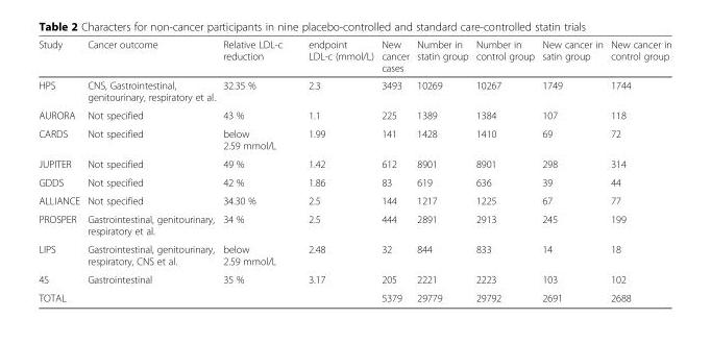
<table><thead><tr><td>Study</td><td>Cancer outcome</td><td>Relative LDL-c reduction</td><td>endpoint LDL-c (mmol/L)</td><td>New cancer cases</td><td>Number in statin group</td><td>Number in control group</td><td>New cancer in satin group</td><td>New cancer in control group</td></tr></thead><tbody><tr><td>HPS</td><td>CNS, Gastrointestinal, genitourinary, respiratory et al.</td><td>32.35 %</td><td>2.3</td><td>3493</td><td>10269</td><td>10267</td><td>1749</td><td>1744</td></tr><tr><td>AURORA</td><td>Not specified</td><td>43 %</td><td>1.1</td><td>225</td><td>1389</td><td>1384</td><td>107</td><td>118</td></tr><tr><td>CARDS</td><td>Not specified</td><td>below 2.59 mmol/L</td><td>1.99</td><td>141</td><td>1428</td><td>1410</td><td>69</td><td>72</td></tr><tr><td>JUPITER</td><td>Not specified</td><td>49 %</td><td>1.42</td><td>612</td><td>8901</td><td>8901</td><td>298</td><td>314</td></tr><tr><td>GDDS</td><td>Not specified</td><td>42 %</td><td>1.86</td><td>83</td><td>619</td><td>636</td><td>39</td><td>44</td></tr><tr><td>ALLIANCE</td><td>Not specified</td><td>34.30 %</td><td>2.5</td><td>144</td><td>1217</td><td>1225</td><td>67</td><td>77</td></tr><tr><td>PROSPER</td><td>Gastrointestinal, genitourinary, respiratory et al.</td><td>34 %</td><td>2.5</td><td>444</td><td>2891</td><td>2913</td><td>245</td><td>199</td></tr><tr><td>LIPS</td><td>Gastrointestinal, genitourinary, respiratory, CNS et al.</td><td>below 2.59 mmol/L</td><td>2.48</td><td>32</td><td>844</td><td>833</td><td>14</td><td>18</td></tr><tr><td>4S</td><td>Gastrointestinal</td><td>35 %</td><td>3.17</td><td>205</td><td>2221</td><td>2223</td><td>103</td><td>102</td></tr><tr><td>TOTAL</td><td></td><td></td><td></td><td>5379</td><td>29779</td><td>29792</td><td>2691</td><td>2688</td></tr></tbody></table>